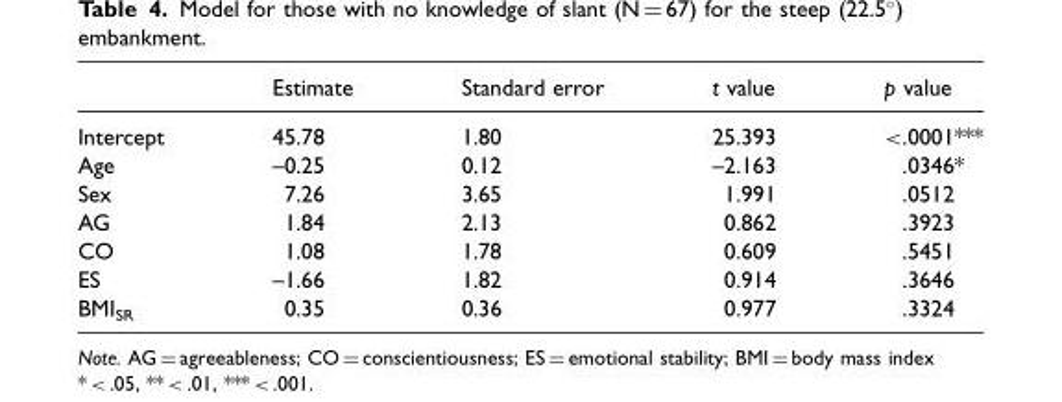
<table><thead><tr><td></td><td>Estimate</td><td>Standard error</td><td>t value</td><td>p value</td></tr></thead><tbody><tr><td>Intercept</td><td>45.78</td><td>1.80</td><td>25.393</td><td>&lt;.0001***</td></tr><tr><td>Age</td><td>–0.25</td><td>0.12</td><td>–2.163</td><td>.0346*</td></tr><tr><td>Sex</td><td>7.26</td><td>3.65</td><td>1.991</td><td>.0512</td></tr><tr><td>AG</td><td>1.84</td><td>2.13</td><td>0.862</td><td>.3923</td></tr><tr><td>CO</td><td>1.08</td><td>1.78</td><td>0.609</td><td>.5451</td></tr><tr><td>ES</td><td>–1.66</td><td>1.82</td><td>0.914</td><td>.3646</td></tr><tr><td>BMI<sub>SR</sub></td><td>0.35</td><td>0.36</td><td>0.977</td><td>.3324</td></tr></tbody></table>